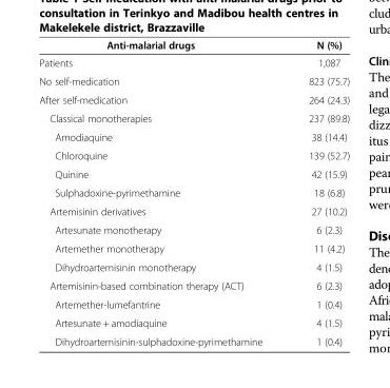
<table><thead><tr><td>Anti-malarial drugs</td><td>N (%)</td></tr></thead><tbody><tr><td>Patients</td><td>1,087</td></tr><tr><td>No self-medication</td><td>823 (75.7)</td></tr><tr><td>After self-medication</td><td>264 (24.3)</td></tr><tr><td>Classical monotherapies</td><td>237 (89.8)</td></tr><tr><td>Amodiaquine</td><td>38 (14.4)</td></tr><tr><td>Chloroquine</td><td>139 (52.7)</td></tr><tr><td>Quinine</td><td>42 (15.9)</td></tr><tr><td>Sulphadoxine-pyrimethamine</td><td>18 (6.8)</td></tr><tr><td>Artemisinin derivatives</td><td>27 (10.2)</td></tr><tr><td>Artesunate monotherapy</td><td>6 (2.3)</td></tr><tr><td>Artemether monotherapy</td><td>11 (4.2)</td></tr><tr><td>Dihydroartemisinin monotherapy</td><td>4 (1.5)</td></tr><tr><td>Artemisinin-based combination therapy (ACT)</td><td>6 (2.3)</td></tr><tr><td>Artemether-lumefantrine</td><td>1 (0.4)</td></tr><tr><td>Artesunate + amodiaquine</td><td>4 (1.5)</td></tr><tr><td>Dihydroartemisinin-sulphadoxine-pyrimethamine</td><td>1 (0.4)</td></tr></tbody></table>